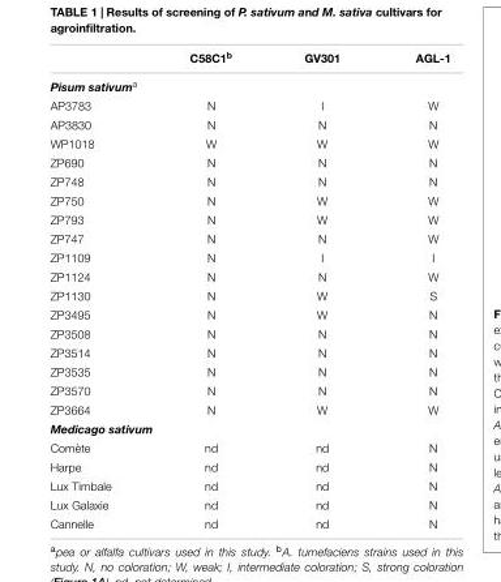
<table><thead><tr><td></td><td>C58C1<sup>b</sup></td><td>GV301</td><td>AGL-1</td></tr></thead><tbody><tr><td colspan="4">Pisum sativum<sup>a</sup></td></tr><tr><td>AP3783</td><td>N</td><td>I</td><td>W</td></tr><tr><td>AP3830</td><td>N</td><td>N</td><td>N</td></tr><tr><td>WP1018</td><td>W</td><td>W</td><td>W</td></tr><tr><td>ZP690</td><td>N</td><td>N</td><td>N</td></tr><tr><td>ZP748</td><td>N</td><td>N</td><td>N</td></tr><tr><td>ZP750</td><td>N</td><td>W</td><td>W</td></tr><tr><td>ZP793</td><td>N</td><td>W</td><td>W</td></tr><tr><td>ZP747</td><td>N</td><td>N</td><td>W</td></tr><tr><td>ZP1109</td><td>N</td><td>I</td><td>I</td></tr><tr><td>ZP1124</td><td>N</td><td>N</td><td>W</td></tr><tr><td>ZP1130</td><td>N</td><td>W</td><td>S</td></tr><tr><td>ZP3495</td><td>N</td><td>W</td><td>N</td></tr><tr><td>ZP3508</td><td>N</td><td>N</td><td>N</td></tr><tr><td>ZP3514</td><td>N</td><td>N</td><td>N</td></tr><tr><td>ZP3535</td><td>N</td><td>N</td><td>N</td></tr><tr><td>ZP3570</td><td>N</td><td>N</td><td>N</td></tr><tr><td>ZP3664</td><td>N</td><td>W</td><td>W</td></tr><tr><td colspan="4">Medicago sativum</td></tr><tr><td>Comète</td><td>nd</td><td>nd</td><td>N</td></tr><tr><td>Harpe</td><td>nd</td><td>nd</td><td>N</td></tr><tr><td>Lux Timbale</td><td>nd</td><td>nd</td><td>N</td></tr><tr><td>Lux Galaxie</td><td>nd</td><td>nd</td><td>N</td></tr><tr><td>Cannelle</td><td>nd</td><td>nd</td><td>N</td></tr></tbody></table>